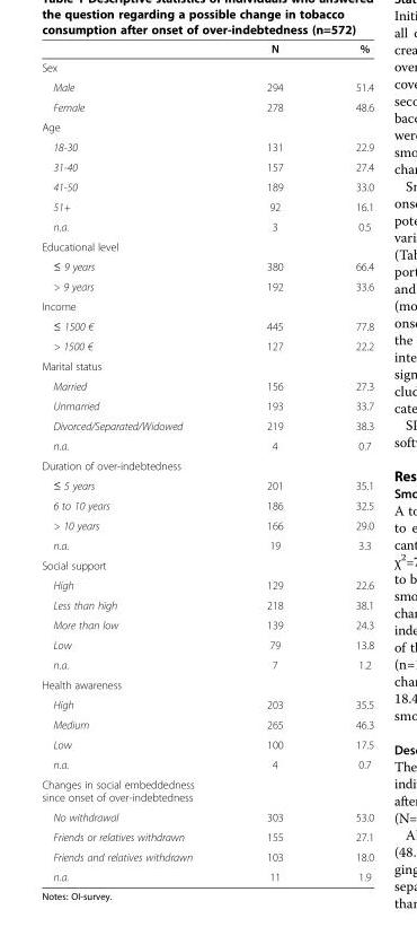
<table><thead><tr><td></td><td>N</td><td>%</td></tr></thead><tbody><tr><td colspan="3">Sex</td></tr><tr><td>Male</td><td>294</td><td>51.4</td></tr><tr><td>Female</td><td>278</td><td>48.6</td></tr><tr><td colspan="3">Age</td></tr><tr><td>18-30</td><td>131</td><td>22.9</td></tr><tr><td>31-40</td><td>157</td><td>27.4</td></tr><tr><td>41-50</td><td>189</td><td>33.0</td></tr><tr><td>51+</td><td>92</td><td>16.1</td></tr><tr><td>n.a.</td><td>3</td><td>0.5</td></tr><tr><td colspan="3">Educational level</td></tr><tr><td>≤ 9 years</td><td>380</td><td>66.4</td></tr><tr><td>&gt; 9 years</td><td>192</td><td>33.6</td></tr><tr><td colspan="3">Income</td></tr><tr><td>≤ 1500 €</td><td>445</td><td>77.8</td></tr><tr><td>&gt; 1500 €</td><td>127</td><td>22.2</td></tr><tr><td colspan="3">Marital status</td></tr><tr><td>Married</td><td>156</td><td>27.3</td></tr><tr><td>Unmarried</td><td>193</td><td>33.7</td></tr><tr><td>Divorced/Separated/Widowed</td><td>219</td><td>38.3</td></tr><tr><td>n.a.</td><td>4</td><td>0.7</td></tr><tr><td colspan="3">Duration of over-indebtedness</td></tr><tr><td>≤ 5 years</td><td>201</td><td>35.1</td></tr><tr><td>6 to 10 years</td><td>186</td><td>32.5</td></tr><tr><td>&gt; 10 years</td><td>166</td><td>29.0</td></tr><tr><td>n.a.</td><td>19</td><td>3.3</td></tr><tr><td colspan="3">Social support</td></tr><tr><td>High</td><td>129</td><td>22.6</td></tr><tr><td>Less than high</td><td>218</td><td>38.1</td></tr><tr><td>More than low</td><td>139</td><td>24.3</td></tr><tr><td>Low</td><td>79</td><td>13.8</td></tr><tr><td>n.a.</td><td>7</td><td>1.2</td></tr><tr><td colspan="3">Health awareness</td></tr><tr><td>High</td><td>203</td><td>35.5</td></tr><tr><td>Medium</td><td>265</td><td>46.3</td></tr><tr><td>Low</td><td>100</td><td>17.5</td></tr><tr><td>n.a.</td><td>4</td><td>0.7</td></tr><tr><td colspan="3">Changes in social embeddedness since onset of over-indebtedness</td></tr><tr><td>No withdrawal</td><td>303</td><td>53.0</td></tr><tr><td>Friends or relatives withdrawn</td><td>155</td><td>27.1</td></tr><tr><td>Friends and relatives withdrawn</td><td>103</td><td>18.0</td></tr><tr><td>n.a.</td><td>11</td><td>1.9</td></tr></tbody></table>